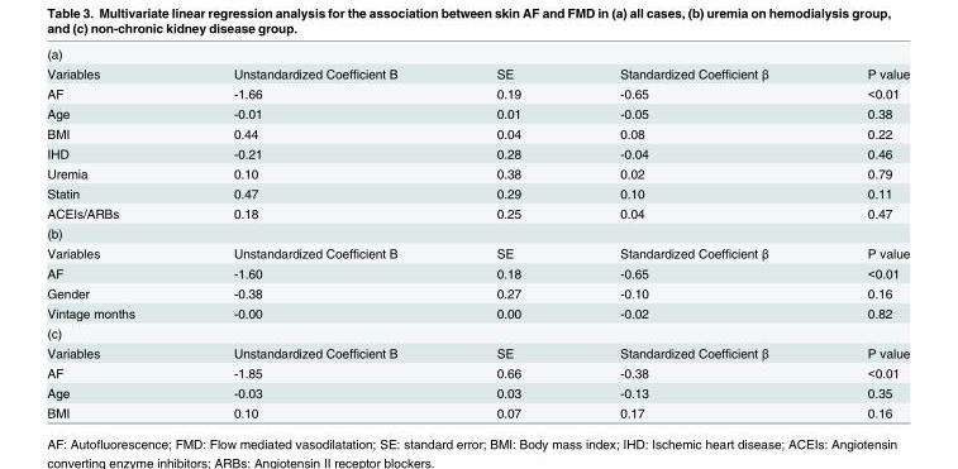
<table><tbody><tr><td colspan="5">(a)</td></tr><tr><td>Variables</td><td>Unstandardized Coefficient B</td><td>SE</td><td>Standardized Coefficient β</td><td>P value</td></tr><tr><td>AF</td><td>-1.66</td><td>0.19</td><td>-0.65</td><td>&lt;0.01</td></tr><tr><td>Age</td><td>-0.01</td><td>0.01</td><td>-0.05</td><td>0.38</td></tr><tr><td>BMI</td><td>0.44</td><td>0.04</td><td>0.08</td><td>0.22</td></tr><tr><td>IHD</td><td>-0.21</td><td>0.28</td><td>-0.04</td><td>0.46</td></tr><tr><td>Uremia</td><td>0.10</td><td>0.38</td><td>0.02</td><td>0.79</td></tr><tr><td>Statin</td><td>0.47</td><td>0.29</td><td>0.10</td><td>0.11</td></tr><tr><td>ACEIs/ARBs</td><td>0.18</td><td>0.25</td><td>0.04</td><td>0.47</td></tr><tr><td colspan="5">(b)</td></tr><tr><td>Variables</td><td>Unstandardized Coefficient B</td><td>SE</td><td>Standardized Coefficient β</td><td>P value</td></tr><tr><td>AF</td><td>-1.60</td><td>0.18</td><td>-0.65</td><td>&lt;0.01</td></tr><tr><td>Gender</td><td>-0.38</td><td>0.27</td><td>-0.10</td><td>0.16</td></tr><tr><td>Vintage months</td><td>-0.00</td><td>0.00</td><td>-0.02</td><td>0.82</td></tr><tr><td colspan="5">(c)</td></tr><tr><td>Variables</td><td>Unstandardized Coefficient B</td><td>SE</td><td>Standardized Coefficient β</td><td>P value</td></tr><tr><td>AF</td><td>-1.85</td><td>0.66</td><td>-0.38</td><td>&lt;0.01</td></tr><tr><td>Age</td><td>-0.03</td><td>0.03</td><td>-0.13</td><td>0.35</td></tr><tr><td>BMI</td><td>0.10</td><td>0.07</td><td>0.17</td><td>0.16</td></tr></tbody></table>